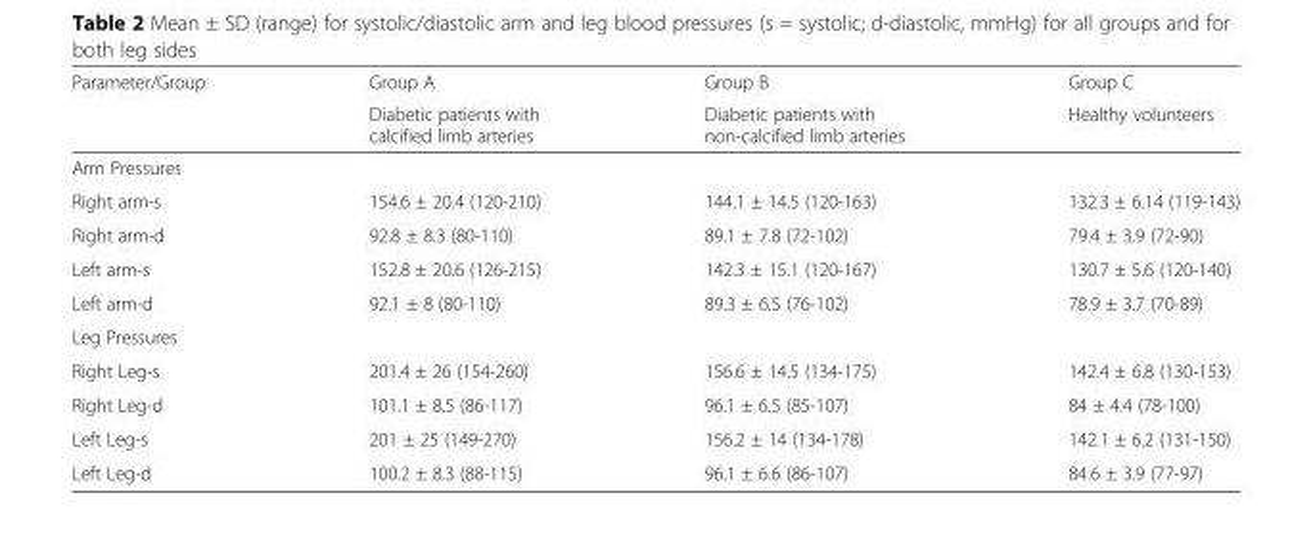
<table><thead><tr><td rowspan="2">Parameter/Group</td><td rowspan="2">Group A Diabetic patients with calcified limb arteries</td><td rowspan="2">Group B Diabetic patients with non-calcified limb arteries</td><td rowspan="2">Group C Healthy volunteers</td></tr><tr></tr></thead><tbody><tr><td colspan="4">Arm Pressures</td></tr><tr><td>Right arm-s</td><td>154.6 ± 20.4 (120-210)</td><td>144.1 ± 14.5 (120-163)</td><td>132.3 ± 6.14 (119-143)</td></tr><tr><td>Right arm-d</td><td>92.8 ± 8.3 (80-110)</td><td>89.1 ± 7.8 (72-102)</td><td>79.4 ± 3.9 (72-90)</td></tr><tr><td>Left arm-s</td><td>152.8 ± 20.6 (126-215)</td><td>142.3 ± 15.1 (120-167)</td><td>130.7 ± 5.6 (120-140)</td></tr><tr><td>Left arm-d</td><td>92.1 ± 8 (80-110)</td><td>89.3 ± 6.5 (76-102)</td><td>78.9 ± 3.7 (70-89)</td></tr><tr><td colspan="4">Leg Pressures</td></tr><tr><td>Right Leg-s</td><td>201.4 ± 26 (154-260)</td><td>156.6 ± 14.5 (134-175)</td><td>142.4 ± 6.8 (130-153)</td></tr><tr><td>Right Leg-d</td><td>101.1 ± 8.5 (86-117)</td><td>96.1 ± 6.5 (85-107)</td><td>84 ± 4.4 (78-100)</td></tr><tr><td>Left Leg-s</td><td>201 ± 25 (149-270)</td><td>156.2 ± 14 (134-178)</td><td>142.1 ± 6.2 (131-150)</td></tr><tr><td>Left Leg-d</td><td>100.2 ± 8.3 (88-115)</td><td>96.1 ± 6.6 (86-107)</td><td>84.6 ± 3.9 (77-97)</td></tr></tbody></table>